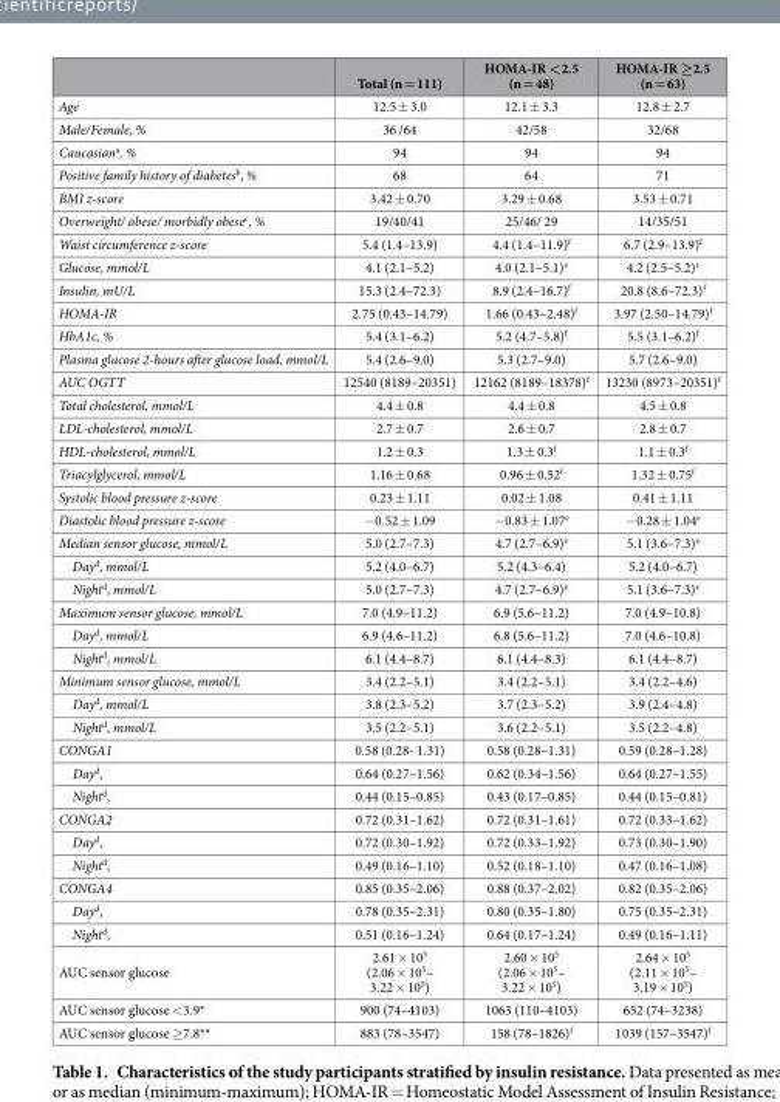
<table><thead><tr><td></td><td>Total (n = 111)</td><td>HOMA-IR &lt;2.5 (n = 48)</td><td>HOMA-IR ≥2.5 (n = 63)</td></tr></thead><tbody><tr><td>Age</td><td>12.5 ± 3.0</td><td>12.1 ± 3.3</td><td>12.8 ± 2.7</td></tr><tr><td>Male/Female, %</td><td>36 /64</td><td>42/58</td><td>32/68</td></tr><tr><td>Caucasian<sup>a</sup>, %</td><td>94</td><td>94</td><td>94</td></tr><tr><td>Positive family history of diabetes<sup>b</sup>, %</td><td>68</td><td>64</td><td>71</td></tr><tr><td>BMI z-score</td><td>3.42 ± 0.70</td><td>3.29 ± 0.68</td><td>3.53 ± 0.71</td></tr><tr><td>Overweight/ obese/ morbidly obese<sup>c</sup>, %</td><td>19/40/41</td><td>25/46/ 29</td><td>14/35/51</td></tr><tr><td>Waist circumference z-score</td><td>5.4 (1.4–13.9)</td><td>4.4 (1.4–11.9)<sup>f</sup></td><td>6.7 (2.9–13.9)<sup>f</sup></td></tr><tr><td>Glucose, mmol/L</td><td>4.1 (2.1–5.2)</td><td>4.0 (2.1–5.1)<sup>e</sup></td><td>4.2 (2.5–5.2)<sup>e</sup></td></tr><tr><td>Insulin, mU/L</td><td>15.3 (2.4–72.3)</td><td>8.9 (2.4–16.7)<sup>f</sup></td><td>20.8 (8.6–72.3)<sup>f</sup></td></tr><tr><td>HOMA-IR</td><td>2.75 (0.43–14.79)</td><td>1.66 (0.43–2.48)<sup>f</sup></td><td>3.97 (2.50–14.79)<sup>f</sup></td></tr><tr><td>HbA1c, %</td><td>5.4 (3.1–6.2)</td><td>5.2 (4.7–5.8)<sup>f</sup></td><td>5.5 (3.1–6.2)<sup>f</sup></td></tr><tr><td>Plasma glucose 2-hours after glucose load, mmol/L</td><td>5.4 (2.6–9.0)</td><td>5.3 (2.7–9.0)</td><td>5.7 (2.6–9.0)</td></tr><tr><td>AUC OGTT</td><td>12540 (8189–20351)</td><td>12162 (8189–18378)<sup>f</sup></td><td>13230 (8973–20351)<sup>f</sup></td></tr><tr><td>Total cholesterol, mmol/L</td><td>4.4 ± 0.8</td><td>4.4 ± 0.8</td><td>4.5 ± 0.8</td></tr><tr><td>LDL-cholesterol, mmol/L</td><td>2.7 ± 0.7</td><td>2.6 ± 0.7</td><td>2.8 ± 0.7</td></tr><tr><td>HDL-cholesterol, mmol/L</td><td>1.2 ± 0.3</td><td>1.3 ± 0.3<sup>f</sup></td><td>1.1 ± 0.3<sup>f</sup></td></tr><tr><td>Triacylglycerol, mmol/L</td><td>1.16 ± 0.68</td><td>0.96 ± 0.52<sup>f</sup></td><td>1.32 ± 0.75<sup>f</sup></td></tr><tr><td>Systolic blood pressure z-score</td><td>0.23 ± 1.11</td><td>0.02 ± 1.08</td><td>0.41 ± 1.11</td></tr><tr><td>Diastolic blood pressure z-score</td><td>− 0.52 ± 1.09</td><td>− 0.83 ± 1.07<sup>e</sup></td><td>− 0.28 ± 1.04<sup>e</sup></td></tr><tr><td>Median sensor glucose, mmol/L</td><td>5.0 (2.7–7.3)</td><td>4.7 (2.7–6.9)<sup>e</sup></td><td>5.1 (3.6–7.3)<sup>e</sup></td></tr><tr><td>Day<sup>d</sup>, mmol/L</td><td>5.2 (4.0–6.7)</td><td>5.2 (4.3–6.4)</td><td>5.2 (4.0–6.7)</td></tr><tr><td>Night<sup>d</sup>, mmol/L</td><td>5.0 (2.7–7.3)</td><td>4.7 (2.7–6.9)<sup>e</sup></td><td>5.1 (3.6–7.3)<sup>e</sup></td></tr><tr><td>Maximum sensor glucose, mmol/L</td><td>7.0 (4.9–11.2)</td><td>6.9 (5.6–11.2)</td><td>7.0 (4.9–10.8)</td></tr><tr><td>Day<sup>d</sup>, mmol/L</td><td>6.9 (4.6–11.2)</td><td>6.8 (5.6–11.2)</td><td>7.0 (4.6–10.8)</td></tr><tr><td>Night<sup>d</sup>, mmol/L</td><td>6.1 (4.4–8.7)</td><td>6.1 (4.4–8.3)</td><td>6.1 (4.4–8.7)</td></tr><tr><td>Minimum sensor glucose, mmol/L</td><td>3.4 (2.2–5.1)</td><td>3.4 (2.2–5.1)</td><td>3.4 (2.2–4.6)</td></tr><tr><td>Day<sup>d</sup>, mmol/L</td><td>3.8 (2.3–5.2)</td><td>3.7 (2.3–5.2)</td><td>3.9 (2.4–4.8)</td></tr><tr><td>Night<sup>d</sup>, mmol/L</td><td>3.5 (2.2–5.1)</td><td>3.6 (2.2–5.1)</td><td>3.5 (2.2–4.8)</td></tr><tr><td>CONGA1</td><td>0.58 (0.28- 1.31)</td><td>0.58 (0.28–1.31)</td><td>0.59 (0.28–1.28)</td></tr><tr><td>Day<sup>d</sup>,</td><td>0.64 (0.27–1.56)</td><td>0.62 (0.34–1.56)</td><td>0.64 (0.27–1.55)</td></tr><tr><td>Night<sup>d</sup>,</td><td>0.44 (0.15–0.85)</td><td>0.43 (0.17–0.85)</td><td>0.44 (0.15–0.81)</td></tr><tr><td>CONGA2</td><td>0.72 (0.31–1.62)</td><td>0.72 (0.31–1.61)</td><td>0.72 (0.33–1.62)</td></tr><tr><td>Day<sup>d</sup>,</td><td>0.72 (0.30–1.92)</td><td>0.72 (0.33–1.92)</td><td>0.73 (0.30–1.90)</td></tr><tr><td>Night<sup>d</sup>,</td><td>0.49 (0.16–1.10)</td><td>0.52 (0.18–1.10)</td><td>0.47 (0.16–1.08)</td></tr><tr><td>CONGA4</td><td>0.85 (0.35–2.06)</td><td>0.88 (0.37–2.02)</td><td>0.82 (0.35–2.06)</td></tr><tr><td>Day<sup>d</sup>,</td><td>0.78 (0.35–2.31)</td><td>0.80 (0.35–1.80)</td><td>0.75 (0.35–2.31)</td></tr><tr><td>Night<sup>d</sup>,</td><td>0.51 (0.16–1.24)</td><td>0.64 (0.17–1.24)</td><td>0.49 (0.16–1.11)</td></tr><tr><td>AUC sensor glucose</td><td>2.61 × 10<sup>5</sup> (2.06 × 10<sup>5</sup>– 3.22 × 10<sup>5</sup>)</td><td>2.60 × 10<sup>5</sup> (2.06 × 10<sup>5</sup>– 3.22 × 10<sup>5</sup>)</td><td>2.64 × 10<sup>5</sup> (2.11 × 10<sup>5</sup>– 3.19 × 10<sup>5</sup>)</td></tr><tr><td>AUC sensor glucose &lt; 3.9*</td><td>900 (74–4103)</td><td>1063 (110–4103)</td><td>652 (74–3238)</td></tr><tr><td>AUC sensor glucose ≥ 7.8**</td><td>883 (78–3547)</td><td>158 (78–1826)<sup>f</sup></td><td>1039 (157–3547)<sup>f</sup></td></tr></tbody></table>